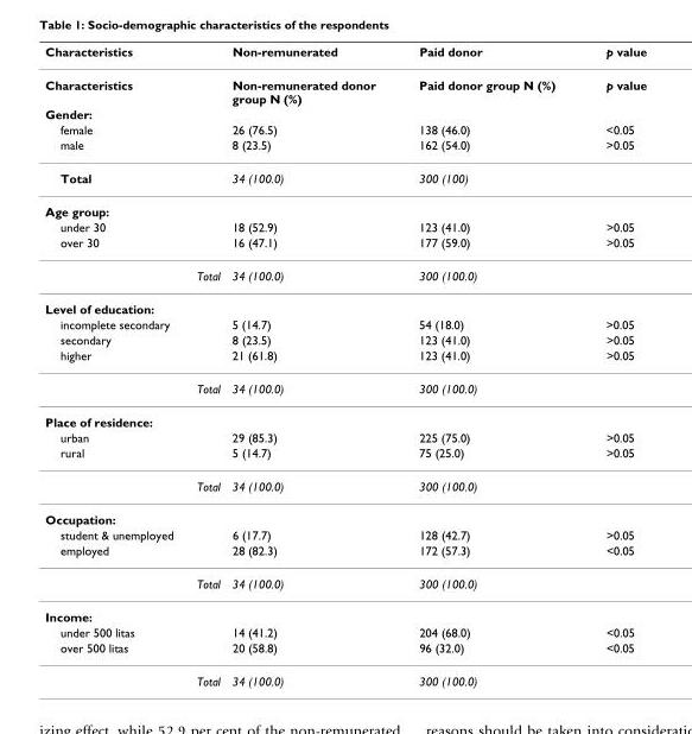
<table><thead><tr><td>Characteristics</td><td>Non-remunerated</td><td>Paid donor</td><td>p value</td></tr></thead><tbody><tr><td>Characteristics</td><td>Non-remunerated donor group N (%)</td><td>Paid donor group N (%)</td><td>p value</td></tr><tr><td colspan="4">Gender:</td></tr><tr><td>female</td><td>26 (76.5)</td><td>138 (46.0)</td><td>&lt;0.05</td></tr><tr><td>male</td><td>8 (23.5)</td><td>162 (54.0)</td><td>&gt;0.05</td></tr><tr><td>Total</td><td>34 (100.0)</td><td>300 (100)</td><td></td></tr><tr><td colspan="4">Age group:</td></tr><tr><td>under 30</td><td>18 (52.9)</td><td>123 (41.0)</td><td>&gt;0.05</td></tr><tr><td>over 30</td><td>16 (47.1)</td><td>177 (59.0)</td><td>&gt;0.05</td></tr><tr><td>Total</td><td>34 (100.0)</td><td>300 (100.0)</td><td></td></tr><tr><td colspan="4">Level of education:</td></tr><tr><td>incomplete secondary</td><td>5 (14.7)</td><td>54 (18.0)</td><td>&gt;0.05</td></tr><tr><td>secondary</td><td>8 (23.5)</td><td>123 (41.0)</td><td>&gt;0.05</td></tr><tr><td>higher</td><td>21 (61.8)</td><td>123 (41.0)</td><td>&gt;0.05</td></tr><tr><td>Total</td><td>34 (100.0)</td><td>300 (100.0)</td><td></td></tr><tr><td colspan="4">Place of residence:</td></tr><tr><td>urban</td><td>29 (85.3)</td><td>225 (75.0)</td><td>&gt;0.05</td></tr><tr><td>rural</td><td>5 (14.7)</td><td>75 (25.0)</td><td>&gt;0.05</td></tr><tr><td>Total</td><td>34 (100.0)</td><td>300 (100.0)</td><td></td></tr><tr><td colspan="4">Occupation:</td></tr><tr><td>student &amp; unemployed</td><td>6 (17.7)</td><td>128 (42.7)</td><td>&gt;0.05</td></tr><tr><td>employed</td><td>28 (82.3)</td><td>172 (57.3)</td><td>&lt;0.05</td></tr><tr><td>Total</td><td>34 (100.0)</td><td>300 (100.0)</td><td></td></tr><tr><td colspan="4">Income:</td></tr><tr><td>under 500 litas</td><td>14 (41.2)</td><td>204 (68.0)</td><td>&lt;0.05</td></tr><tr><td>over 500 litas</td><td>20 (58.8)</td><td>96 (32.0)</td><td>&lt;0.05</td></tr><tr><td>Total</td><td>34 (100.0)</td><td>300 (100.0)</td><td></td></tr></tbody></table>